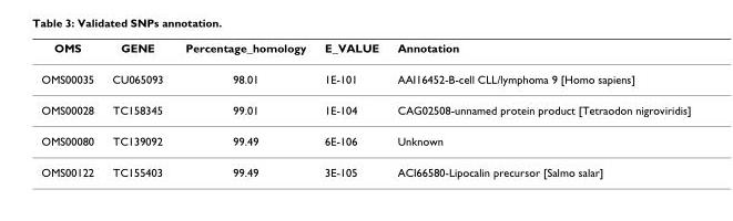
<table><thead><tr><td>OMS</td><td>GENE</td><td>Percentage_homology</td><td>E_VALUE</td><td>Annotation</td></tr></thead><tbody><tr><td>OMS00035</td><td>CU065093</td><td>98.01</td><td>1E-101</td><td>AAI16452-B-cell CLL/lymphoma 9 [Homo sapiens]</td></tr><tr><td>OMS00028</td><td>TC158345</td><td>99.01</td><td>1E-104</td><td>CAG02508-unnamed protein product [Tetraodon nigroviridis]</td></tr><tr><td>OMS00080</td><td>TC139092</td><td>99.49</td><td>6E-106</td><td>Unknown</td></tr><tr><td>OMS00122</td><td>TC155403</td><td>99.49</td><td>3E-105</td><td>ACI66580-Lipocalin precursor [Salmo salar]</td></tr></tbody></table>